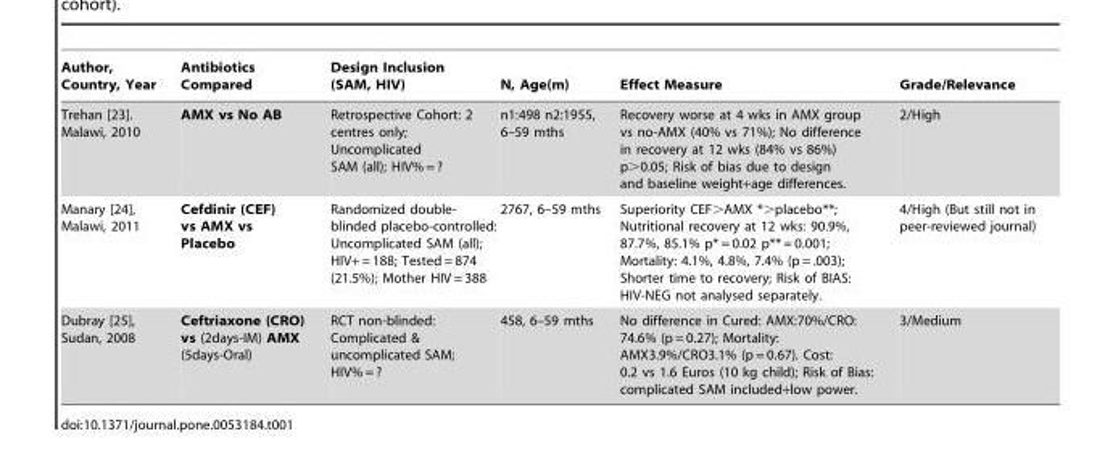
<table><thead><tr><td>Author, Country, Year</td><td>Antibiotics Compared</td><td>Design Inclusion (SAM, HIV)</td><td>N, Age(m)</td><td>Effect Measure</td><td>Grade/Relevance</td></tr></thead><tbody><tr><td>Trehan [23]. Malawi, 2010</td><td>AMX vs No AB</td><td>Retrospective Cohort: 2 centres only; Uncomplicated SAM (all); HIV% = ?</td><td>n1:498 n2:1955, 6–59 mths</td><td>Recovery worse at 4 wks in AMX group vs no-AMX (40% vs 71%); No difference in recovery at 12 wks (84% vs 86%) p&gt;0.05; Risk of bias due to design and baseline weight+age differences.</td><td>2/High</td></tr><tr><td>Manary [24], Malawi, 2011</td><td>Cefdinir (CEF) vs AMX vs Placebo</td><td>Randomized double- blinded placebo-controlled: Uncomplicated SAM (all); HIV+ = 188; Tested = 874 (21.5%); Mother HIV = 388</td><td>2767, 6–59 mths</td><td>Superiority CEF&gt;AMX *&gt;placebo**; Nutritional recovery at 12 wks: 90.9%, 87.7%, 85.1% p* = 0.02 p** = 0.001; Mortality: 4.1%, 4.8%, 7.4% (p = .003); Shorter time to recovery; Risk of BIAS: HIV-NEG not analysed separately.</td><td>4/High (But still not in peer-reviewed journal)</td></tr><tr><td>Dubray [25], Sudan, 2008</td><td>Ceftriaxone (CRO) vs (2days-IM) AMX (5days-Oral)</td><td>RCT non-blinded: Complicated &amp; uncomplicated SAM; HIV% = ?</td><td>458, 6–59 mths</td><td>No difference in Cured: AMX:70%/CRO: 74.6% (p = 0.27); Mortality: AMX3.9%/CRO3.1% (p = 0.67). Cost: 0.2 vs 1.6 Euros (10 kg child); Risk of Bias: complicated SAM included+low power.</td><td>3/Medium</td></tr></tbody></table>